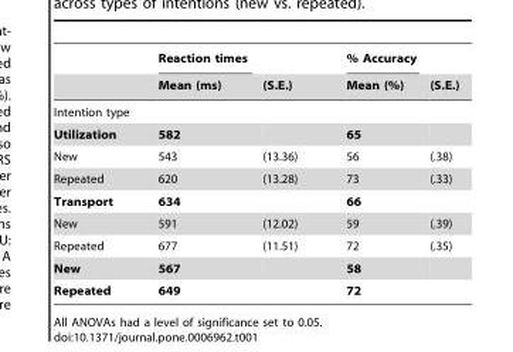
<table><thead><tr><td rowspan="2"></td><td rowspan="2">Reaction times Mean (ms)</td><td rowspan="2">(S.E.)</td><td rowspan="2">% Accuracy Mean (%)</td><td rowspan="2">(S.E.)</td></tr><tr></tr></thead><tbody><tr><td colspan="5">Intention type</td></tr><tr><td>Utilization</td><td>582</td><td></td><td>65</td><td></td></tr><tr><td>New</td><td>543</td><td>(13.36)</td><td>56</td><td>(.38)</td></tr><tr><td>Repeated</td><td>620</td><td>(13.28)</td><td>73</td><td>(.33)</td></tr><tr><td>Transport</td><td>634</td><td></td><td>66</td><td></td></tr><tr><td>New</td><td>591</td><td>(12.02)</td><td>59</td><td>(.39)</td></tr><tr><td>Repeated</td><td>677</td><td>(11.51)</td><td>72</td><td>(.35)</td></tr><tr><td>New</td><td>567</td><td></td><td>58</td><td></td></tr><tr><td>Repeated</td><td>649</td><td></td><td>72</td><td></td></tr></tbody></table>